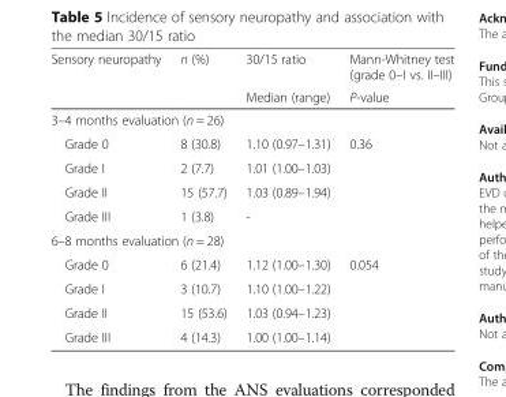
<table><thead><tr><td rowspan="2">Sensory neuropathy</td><td rowspan="2">n (%)</td><td rowspan="2">30/15 ratio Median (range)</td><td rowspan="2">Mann-Whitney test (grade 0–I vs. II–III) P-value</td></tr><tr></tr></thead><tbody><tr><td colspan="4">3–4 months evaluation (n = 26)</td></tr><tr><td>Grade 0</td><td>8 (30.8)</td><td>1.10 (0.97–1.31)</td><td>0.36</td></tr><tr><td>Grade I</td><td>2 (7.7)</td><td>1.01 (1.00–1.03)</td><td></td></tr><tr><td>Grade II</td><td>15 (57.7)</td><td>1.03 (0.89–1.94)</td><td></td></tr><tr><td>Grade III</td><td>1 (3.8)</td><td>-</td><td></td></tr><tr><td colspan="4">6–8 months evaluation (n = 28)</td></tr><tr><td>Grade 0</td><td>6 (21.4)</td><td>1.12 (1.00–1.30)</td><td>0.054</td></tr><tr><td>Grade I</td><td>3 (10.7)</td><td>1.10 (1.00–1.22)</td><td></td></tr><tr><td>Grade II</td><td>15 (53.6)</td><td>1.03 (0.94–1.23)</td><td></td></tr><tr><td>Grade III</td><td>4 (14.3)</td><td>1.00 (1.00–1.14)</td><td></td></tr></tbody></table>